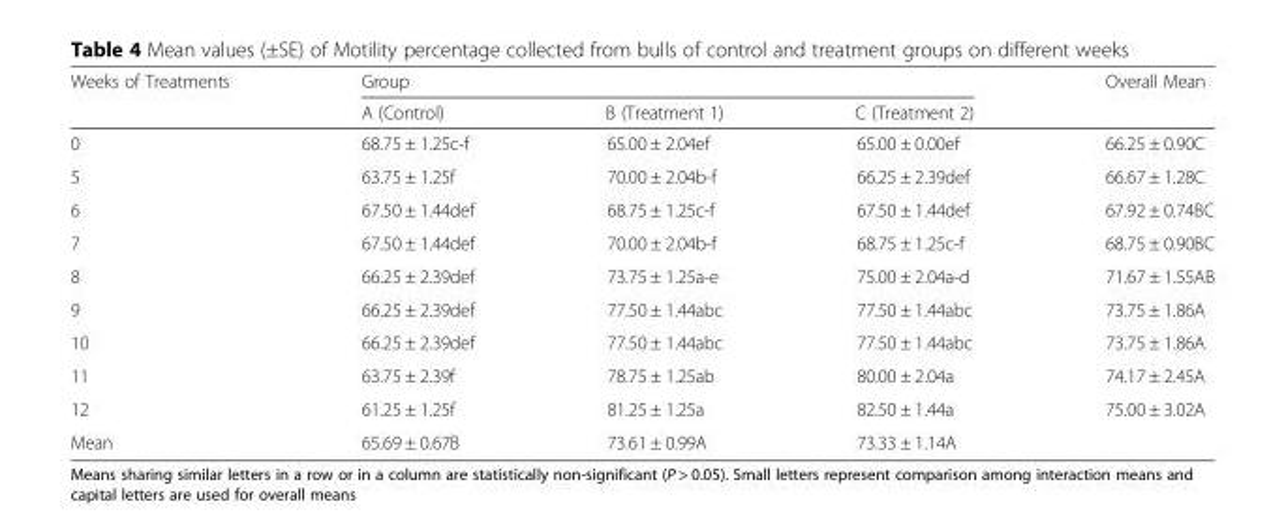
<table><thead><tr><td rowspan="2">Weeks of Treatments</td><td colspan="3">Group</td><td rowspan="2">Overall Mean</td></tr><tr><td>A (Control)</td><td>B (Treatment 1)</td><td>C (Treatment 2)</td></tr></thead><tbody><tr><td>0</td><td>68.75 ± 1.25c-f</td><td>65.00 ± 2.04ef</td><td>65.00 ± 0.00ef</td><td>66.25 ± 0.90C</td></tr><tr><td>5</td><td>63.75 ± 1.25f</td><td>70.00 ± 2.04b-f</td><td>66.25 ± 2.39def</td><td>66.67 ± 1.28C</td></tr><tr><td>6</td><td>67.50 ± 1.44def</td><td>68.75 ± 1.25c-f</td><td>67.50 ± 1.44def</td><td>67.92 ± 0.74BC</td></tr><tr><td>7</td><td>67.50 ± 1.44def</td><td>70.00 ± 2.04b-f</td><td>68.75 ± 1.25c-f</td><td>68.75 ± 0.90BC</td></tr><tr><td>8</td><td>66.25 ± 2.39def</td><td>73.75 ± 1.25a-e</td><td>75.00 ± 2.04a-d</td><td>71.67 ± 1.55AB</td></tr><tr><td>9</td><td>66.25 ± 2.39def</td><td>77.50 ± 1.44abc</td><td>77.50 ± 1.44abc</td><td>73.75 ± 1.86A</td></tr><tr><td>10</td><td>66.25 ± 2.39def</td><td>77.50 ± 1.44abc</td><td>77.50 ± 1.44abc</td><td>73.75 ± 1.86A</td></tr><tr><td>11</td><td>63.75 ± 2.39f</td><td>78.75 ± 1.25ab</td><td>80.00 ± 2.04a</td><td>74.17 ± 2.45A</td></tr><tr><td>12</td><td>61.25 ± 1.25f</td><td>81.25 ± 1.25a</td><td>82.50 ± 1.44a</td><td>75.00 ± 3.02A</td></tr><tr><td>Mean</td><td>65.69 ± 0.67B</td><td>73.61 ± 0.99A</td><td>73.33 ± 1.14A</td><td></td></tr></tbody></table>